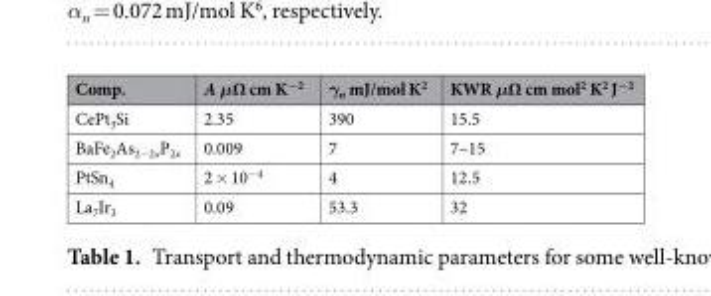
<table><thead><tr><td>Comp.</td><td>A μΩ cm K<sup>−2</sup></td><td>γ<sub>n</sub> mJ/mol K<sup>2</sup></td><td>KWR μΩ cm mol<sup>2</sup> K<sup>2</sup> J<sup>−2</sup></td></tr></thead><tbody><tr><td>CePt<sub>3</sub>Si</td><td>2.35</td><td>390</td><td>15.5</td></tr><tr><td>BaFe<sub>2</sub>As<sub>2−2x</sub>P<sub>2x</sub></td><td>0.009</td><td>7</td><td>7–15</td></tr><tr><td>PtSn<sub>4</sub></td><td>2 × 10<sup>−4</sup></td><td>4</td><td>12.5</td></tr><tr><td>La<sub>7</sub>Ir<sub>3</sub></td><td>0.09</td><td>53.3</td><td>32</td></tr></tbody></table>